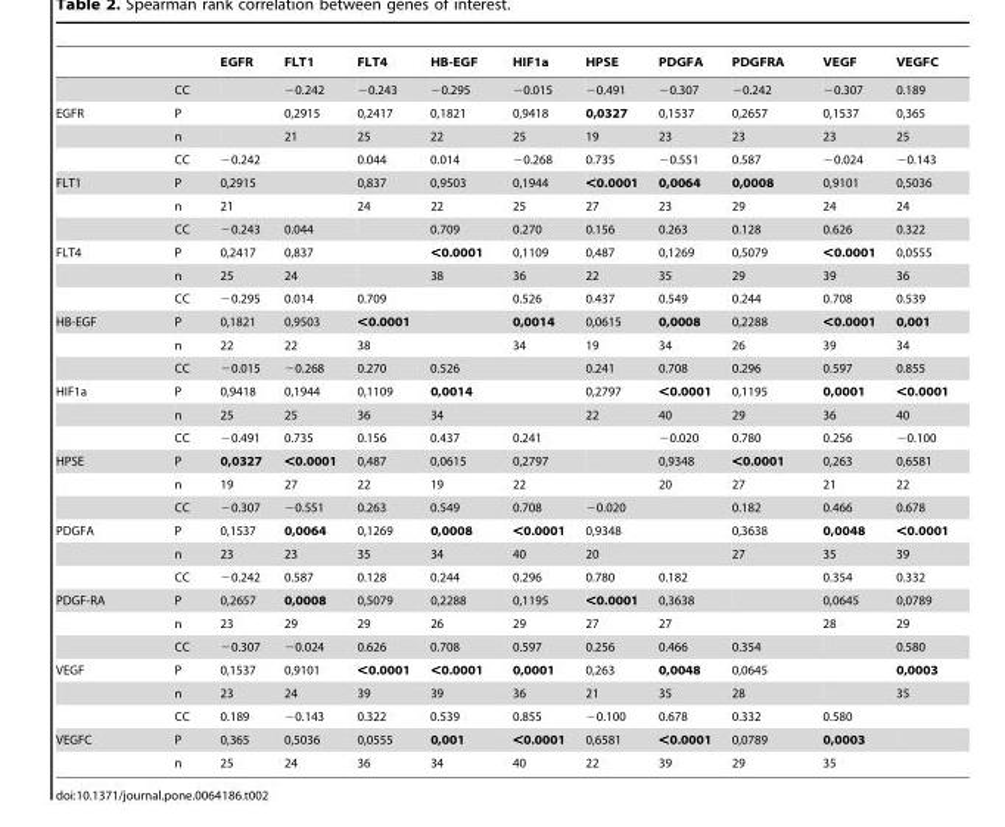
<table><thead><tr><td></td><td></td><td>EGFR</td><td>FLT1</td><td>FLT4</td><td>HB-EGF</td><td>HIF1a</td><td>HPSE</td><td>PDGFA</td><td>PDGFRA</td><td>VEGF</td><td>VEGFC</td></tr></thead><tbody><tr><td></td><td>CC</td><td></td><td>−0.242</td><td>−0.243</td><td>−0.295</td><td>−0.015</td><td>−0.491</td><td>−0.307</td><td>−0.242</td><td>−0.307</td><td>0.189</td></tr><tr><td rowspan="3">EGFR</td><td>P</td><td></td><td>0,2915</td><td>0,2417</td><td>0,1821</td><td>0,9418</td><td>0,0327</td><td>0,1537</td><td>0,2657</td><td>0,1537</td><td>0,365</td></tr><tr><td>n</td><td></td><td>21</td><td>25</td><td>22</td><td>25</td><td>19</td><td>23</td><td>23</td><td>23</td><td>25</td></tr><tr><td>CC</td><td>−0.242</td><td></td><td>0.044</td><td>0.014</td><td>−0.268</td><td>0.735</td><td>−0.551</td><td>0.587</td><td>−0.024</td><td>−0.143</td></tr><tr><td rowspan="3">FLT1</td><td>P</td><td>0,2915</td><td></td><td>0,837</td><td>0,9503</td><td>0,1944</td><td>&lt;0.0001</td><td>0,0064</td><td>0,0008</td><td>0,9101</td><td>0,5036</td></tr><tr><td>n</td><td>21</td><td></td><td>24</td><td>22</td><td>25</td><td>27</td><td>23</td><td>29</td><td>24</td><td>24</td></tr><tr><td>CC</td><td>−0.243</td><td>0.044</td><td></td><td>0.709</td><td>0.270</td><td>0.156</td><td>0.263</td><td>0.128</td><td>0.626</td><td>0.322</td></tr><tr><td rowspan="3">FLT4</td><td>P</td><td>0,2417</td><td>0,837</td><td></td><td>&lt;0.0001</td><td>0,1109</td><td>0,487</td><td>0,1269</td><td>0,5079</td><td>&lt;0.0001</td><td>0,0555</td></tr><tr><td>n</td><td>25</td><td>24</td><td></td><td>38</td><td>36</td><td>22</td><td>35</td><td>29</td><td>39</td><td>36</td></tr><tr><td>CC</td><td>−0.295</td><td>0.014</td><td>0.709</td><td></td><td>0.526</td><td>0.437</td><td>0.549</td><td>0.244</td><td>0.708</td><td>0.539</td></tr><tr><td rowspan="3">HB-EGF</td><td>P</td><td>0,1821</td><td>0,9503</td><td>&lt;0.0001</td><td></td><td>0,0014</td><td>0,0615</td><td>0,0008</td><td>0,2288</td><td>&lt;0.0001</td><td>0,001</td></tr><tr><td>n</td><td>22</td><td>22</td><td>38</td><td></td><td>34</td><td>19</td><td>34</td><td>26</td><td>39</td><td>34</td></tr><tr><td>CC</td><td>−0.015</td><td>−0.268</td><td>0.270</td><td>0.526</td><td></td><td>0.241</td><td>0.708</td><td>0.296</td><td>0.597</td><td>0.855</td></tr><tr><td rowspan="3">HIF1a</td><td>P</td><td>0,9418</td><td>0,1944</td><td>0,1109</td><td>0,0014</td><td></td><td>0,2797</td><td>&lt;0.0001</td><td>0,1195</td><td>0,0001</td><td>&lt;0.0001</td></tr><tr><td>n</td><td>25</td><td>25</td><td>36</td><td>34</td><td></td><td>22</td><td>40</td><td>29</td><td>36</td><td>40</td></tr><tr><td>CC</td><td>−0.491</td><td>0.735</td><td>0.156</td><td>0.437</td><td>0.241</td><td></td><td>−0.020</td><td>0.780</td><td>0.256</td><td>−0.100</td></tr><tr><td rowspan="3">HPSE</td><td>P</td><td>0,0327</td><td>&lt;0.0001</td><td>0,487</td><td>0,0615</td><td>0,2797</td><td></td><td>0,9348</td><td>&lt;0.0001</td><td>0,263</td><td>0,6581</td></tr><tr><td>n</td><td>19</td><td>27</td><td>22</td><td>19</td><td>22</td><td></td><td>20</td><td>27</td><td>21</td><td>22</td></tr><tr><td>CC</td><td>−0.307</td><td>−0.551</td><td>0.263</td><td>0.549</td><td>0.708</td><td>−0.020</td><td></td><td>0.182</td><td>0.466</td><td>0.678</td></tr><tr><td rowspan="3">PDGFA</td><td>P</td><td>0,1537</td><td>0,0064</td><td>0,1269</td><td>0,0008</td><td>&lt;0.0001</td><td>0,9348</td><td></td><td>0,3638</td><td>0,0048</td><td>&lt;0.0001</td></tr><tr><td>n</td><td>23</td><td>23</td><td>35</td><td>34</td><td>40</td><td>20</td><td></td><td>27</td><td>35</td><td>39</td></tr><tr><td>CC</td><td>−0.242</td><td>0.587</td><td>0.128</td><td>0.244</td><td>0.296</td><td>0.780</td><td>0.182</td><td></td><td>0.354</td><td>0.332</td></tr><tr><td rowspan="3">PDGF-RA</td><td>P</td><td>0,2657</td><td>0,0008</td><td>0,5079</td><td>0,2288</td><td>0,1195</td><td>&lt;0.0001</td><td>0,3638</td><td></td><td>0,0645</td><td>0,0789</td></tr><tr><td>n</td><td>23</td><td>29</td><td>29</td><td>26</td><td>29</td><td>27</td><td>27</td><td></td><td>28</td><td>29</td></tr><tr><td>CC</td><td>−0.307</td><td>−0.024</td><td>0.626</td><td>0.708</td><td>0.597</td><td>0.256</td><td>0.466</td><td>0.354</td><td></td><td>0.580</td></tr><tr><td rowspan="3">VEGF</td><td>P</td><td>0,1537</td><td>0,9101</td><td>&lt;0.0001</td><td>&lt;0.0001</td><td>0,0001</td><td>0,263</td><td>0,0048</td><td>0,0645</td><td></td><td>0,0003</td></tr><tr><td>n</td><td>23</td><td>24</td><td>39</td><td>39</td><td>36</td><td>21</td><td>35</td><td>28</td><td></td><td>35</td></tr><tr><td>CC</td><td>0.189</td><td>−0.143</td><td>0.322</td><td>0.539</td><td>0.855</td><td>−0.100</td><td>0.678</td><td>0.332</td><td>0.580</td><td></td></tr><tr><td rowspan="2">VEGFC</td><td>P</td><td>0,365</td><td>0,5036</td><td>0,0555</td><td>0,001</td><td>&lt;0.0001</td><td>0,6581</td><td>&lt;0.0001</td><td>0,0789</td><td>0,0003</td><td></td></tr><tr><td>n</td><td>25</td><td>24</td><td>36</td><td>34</td><td>40</td><td>22</td><td>39</td><td>29</td><td>35</td><td></td></tr></tbody></table>